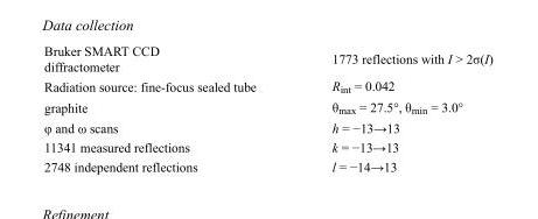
<table><tbody><tr><td>Bruker SMART CCD diffractometer</td><td>1773 reflections with I &gt; 2σ(I)</td></tr><tr><td>Radiation source: fine-focus sealed tube</td><td>R<sub>int</sub> = 0.042</td></tr><tr><td>graphite</td><td>θ<sub>max</sub> = 27.5°, θ<sub>min</sub> = 3.0°</td></tr><tr><td>φ and ω scans</td><td>h = −13→13</td></tr><tr><td>11341 measured reflections</td><td>k = −13→13</td></tr><tr><td>2748 independent reflections</td><td>l = −14→13</td></tr></tbody></table>